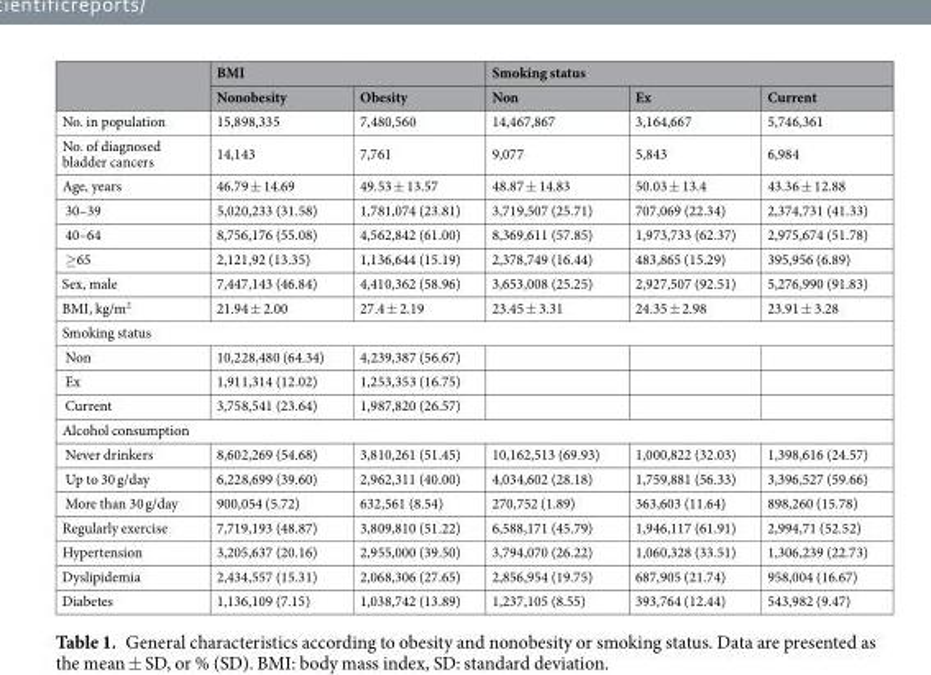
<table><thead><tr><td rowspan="2"></td><td colspan="2">BMI</td><td colspan="3">Smoking status</td></tr><tr><td>Nonobesity</td><td>Obesity</td><td>Non</td><td>Ex</td><td>Current</td></tr></thead><tbody><tr><td>No. in population</td><td>15,898,335</td><td>7,480,560</td><td>14,467,867</td><td>3,164,667</td><td>5,746,361</td></tr><tr><td>No. of diagnosed bladder cancers</td><td>14,143</td><td>7,761</td><td>9,077</td><td>5,843</td><td>6,984</td></tr><tr><td>Age, years</td><td>46.79 ± 14.69</td><td>49.53 ± 13.57</td><td>48.87 ± 14.83</td><td>50.03 ± 13.4</td><td>43.36 ± 12.88</td></tr><tr><td>30–39</td><td>5,020,233 (31.58)</td><td>1,781,074 (23.81)</td><td>3,719,507 (25.71)</td><td>707,069 (22.34)</td><td>2,374,731 (41.33)</td></tr><tr><td>40–64</td><td>8,756,176 (55.08)</td><td>4,562,842 (61.00)</td><td>8,369,611 (57.85)</td><td>1,973,733 (62.37)</td><td>2,975,674 (51.78)</td></tr><tr><td>≥65</td><td>2,121,92 (13.35)</td><td>1,136,644 (15.19)</td><td>2,378,749 (16.44)</td><td>483,865 (15.29)</td><td>395,956 (6.89)</td></tr><tr><td>Sex, male</td><td>7,447,143 (46.84)</td><td>4,410,362 (58.96)</td><td>3,653,008 (25.25)</td><td>2,927,507 (92.51)</td><td>5,276,990 (91.83)</td></tr><tr><td>BMI, kg/m<sup>2</sup></td><td>21.94 ± 2.00</td><td>27.4 ± 2.19</td><td>23.45 ± 3.31</td><td>24.35 ± 2.98</td><td>23.91 ± 3.28</td></tr><tr><td colspan="6">Smoking status</td></tr><tr><td>Non</td><td>10,228,480 (64.34)</td><td>4,239,387 (56.67)</td><td></td><td></td><td></td></tr><tr><td>Ex</td><td>1,911,314 (12.02)</td><td>1,253,353 (16.75)</td><td></td><td></td><td></td></tr><tr><td>Current</td><td>3,758,541 (23.64)</td><td>1,987,820 (26.57)</td><td></td><td></td><td></td></tr><tr><td colspan="6">Alcohol consumption</td></tr><tr><td>Never drinkers</td><td>8,602,269 (54.68)</td><td>3,810,261 (51.45)</td><td>10,162,513 (69.93)</td><td>1,000,822 (32.03)</td><td>1,398,616 (24.57)</td></tr><tr><td>Up to 30 g/day</td><td>6,228,699 (39.60)</td><td>2,962,311 (40.00)</td><td>4,034,602 (28.18)</td><td>1,759,881 (56.33)</td><td>3,396,527 (59.66)</td></tr><tr><td>More than 30 g/day</td><td>900,054 (5.72)</td><td>632,561 (8.54)</td><td>270,752 (1.89)</td><td>363,603 (11.64)</td><td>898,260 (15.78)</td></tr><tr><td>Regularly exercise</td><td>7,719,193 (48.87)</td><td>3,809,810 (51.22)</td><td>6,588,171 (45.79)</td><td>1,946,117 (61.91)</td><td>2,994,71 (52.52)</td></tr><tr><td>Hypertension</td><td>3,205,637 (20.16)</td><td>2,955,000 (39.50)</td><td>3,794,070 (26.22)</td><td>1,060,328 (33.51)</td><td>1,306,239 (22.73)</td></tr><tr><td>Dyslipidemia</td><td>2,434,557 (15.31)</td><td>2,068,306 (27.65)</td><td>2,856,954 (19.75)</td><td>687,905 (21.74)</td><td>958,004 (16.67)</td></tr><tr><td>Diabetes</td><td>1,136,109 (7.15)</td><td>1,038,742 (13.89)</td><td>1,237,105 (8.55)</td><td>393,764 (12.44)</td><td>543,982 (9.47)</td></tr></tbody></table>